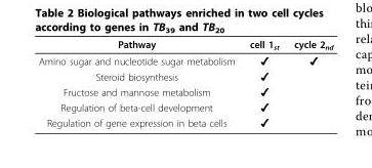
<table><thead><tr><td>Pathway</td><td>cell 1<sub>st</sub></td><td>cycle 2<sub>nd</sub></td></tr></thead><tbody><tr><td>Amino sugar and nucleotide sugar metabolism</td><td>✔</td><td>✔</td></tr><tr><td>Steroid biosynthesis</td><td>✔</td><td></td></tr><tr><td>Fructose and mannose metabolism</td><td>✔</td><td></td></tr><tr><td>Regulation of beta-cell development</td><td>✔</td><td></td></tr><tr><td>Regulation of gene expression in beta cells</td><td>✔</td><td></td></tr></tbody></table>